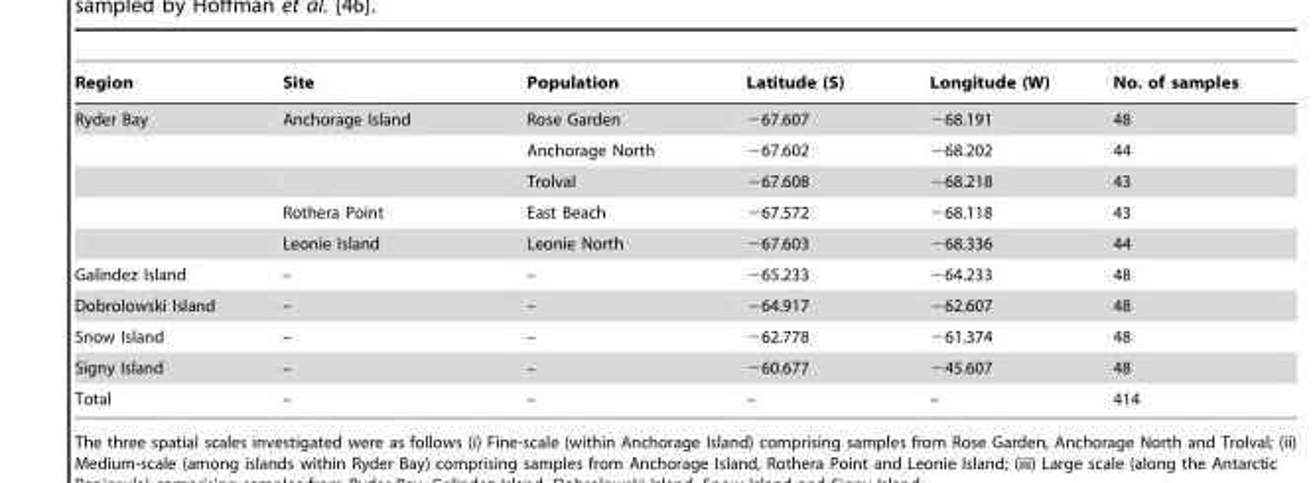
<table><thead><tr><td>Region</td><td>Site</td><td>Population</td><td>Latitude (S)</td><td>Longitude (W)</td><td>No. of samples</td></tr></thead><tbody><tr><td rowspan="5">Ryder Bay</td><td>Anchorage Island</td><td>Rose Garden</td><td>−67.607</td><td>−68.191</td><td>48</td></tr><tr><td></td><td>Anchorage North</td><td>−67.602</td><td>−68.202</td><td>44</td></tr><tr><td></td><td>Trolval</td><td>−67.608</td><td>−68.218</td><td>43</td></tr><tr><td>Rothera Point</td><td>East Beach</td><td>−67.572</td><td>−68.118</td><td>43</td></tr><tr><td>Leonie Island</td><td>Leonie North</td><td>−67.603</td><td>−68.336</td><td>44</td></tr><tr><td>Galindez Island</td><td>–</td><td>–</td><td>−65.233</td><td>−64.233</td><td>48</td></tr><tr><td>Dobrolowski Island</td><td>–</td><td>–</td><td>−64.917</td><td>−62.607</td><td>48</td></tr><tr><td>Snow Island</td><td>–</td><td>–</td><td>−62.778</td><td>−61.374</td><td>48</td></tr><tr><td>Signy Island</td><td>–</td><td>–</td><td>−60.677</td><td>−45.607</td><td>48</td></tr><tr><td>Total</td><td>–</td><td>–</td><td>–</td><td>–</td><td>414</td></tr></tbody></table>